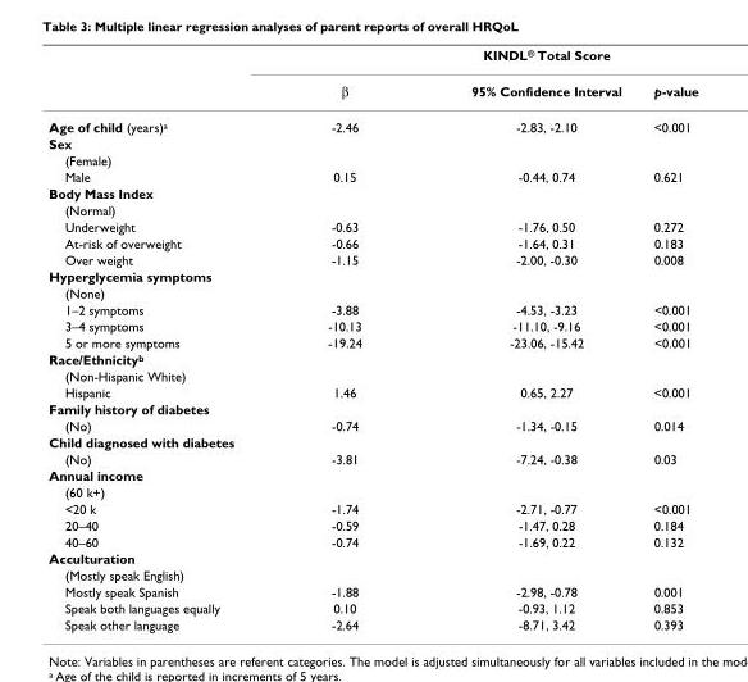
<table><thead><tr><td rowspan="2"></td><td colspan="3">KINDL<sup>®</sup> Total Score</td></tr><tr><td>β</td><td>95% Confidence Interval</td><td>p-value</td></tr></thead><tbody><tr><td>Age of child (years)<sup>a</sup></td><td>-2.46</td><td>-2.83, -2.10</td><td>&lt;0.001</td></tr><tr><td colspan="4">Sex</td></tr><tr><td colspan="4">(Female)</td></tr><tr><td>Male</td><td>0.15</td><td>-0.44, 0.74</td><td>0.621</td></tr><tr><td colspan="4">Body Mass Index</td></tr><tr><td colspan="4">(Normal)</td></tr><tr><td>Underweight</td><td>-0.63</td><td>-1.76, 0.50</td><td>0.272</td></tr><tr><td>At-risk of overweight</td><td>-0.66</td><td>-1.64, 0.31</td><td>0.183</td></tr><tr><td>Over weight</td><td>-1.15</td><td>-2.00, -0.30</td><td>0.008</td></tr><tr><td colspan="4">Hyperglycemia symptoms</td></tr><tr><td colspan="4">(None)</td></tr><tr><td>1–2 symptoms</td><td>-3.88</td><td>-4.53, -3.23</td><td>&lt;0.001</td></tr><tr><td>3–4 symptoms</td><td>-10.13</td><td>-11.10, -9.16</td><td>&lt;0.001</td></tr><tr><td>5 or more symptoms</td><td>-19.24</td><td>-23.06, -15.42</td><td>&lt;0.001</td></tr><tr><td colspan="4">Race/Ethnicity<sup>b</sup></td></tr><tr><td colspan="4">(Non-Hispanic White)</td></tr><tr><td>Hispanic</td><td>1.46</td><td>0.65, 2.27</td><td>&lt;0.001</td></tr><tr><td colspan="4">Family history of diabetes</td></tr><tr><td>(No)</td><td>-0.74</td><td>-1.34, -0.15</td><td>0.014</td></tr><tr><td colspan="4">Child diagnosed with diabetes</td></tr><tr><td>(No)</td><td>-3.81</td><td>-7.24, -0.38</td><td>0.03</td></tr><tr><td colspan="4">Annual income</td></tr><tr><td colspan="4">(60 k+)</td></tr><tr><td>&lt;20 k</td><td>-1.74</td><td>-2.71, -0.77</td><td>&lt;0.001</td></tr><tr><td>20–40</td><td>-0.59</td><td>-1.47, 0.28</td><td>0.184</td></tr><tr><td>40–60</td><td>-0.74</td><td>-1.69, 0.22</td><td>0.132</td></tr><tr><td colspan="4">Acculturation</td></tr><tr><td colspan="4">(Mostly speak English)</td></tr><tr><td>Mostly speak Spanish</td><td>-1.88</td><td>-2.98, -0.78</td><td>0.001</td></tr><tr><td>Speak both languages equally</td><td>0.10</td><td>-0.93, 1.12</td><td>0.853</td></tr><tr><td>Speak other language</td><td>-2.64</td><td>-8.71, 3.42</td><td>0.393</td></tr></tbody></table>